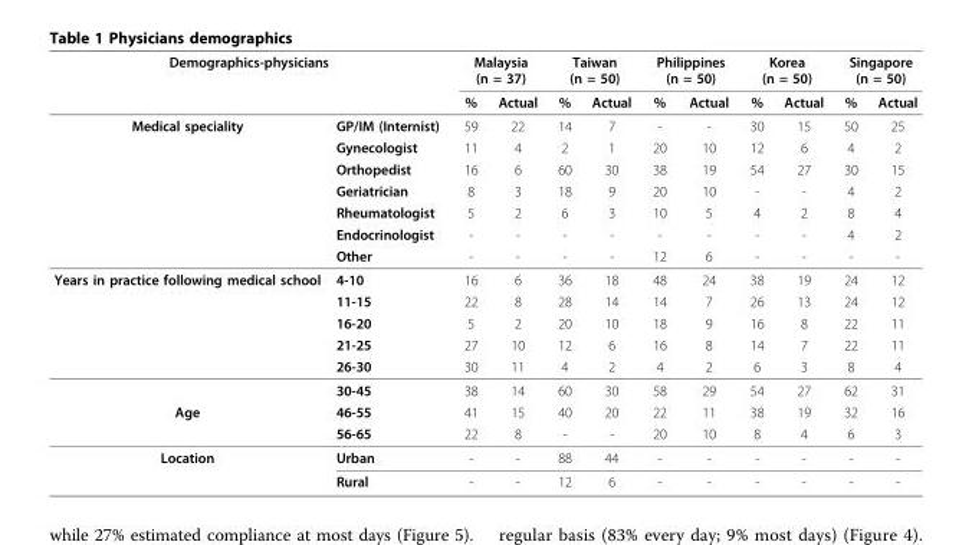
<table><thead><tr><td colspan="2">Demographics-physicians</td><td colspan="2">Malaysia (n = 37)</td><td colspan="2">Taiwan (n = 50)</td><td colspan="2">Philippines (n = 50)</td><td colspan="2">Korea (n = 50)</td><td colspan="2">Singapore (n = 50)</td></tr><tr><td></td><td></td><td>%</td><td>Actual</td><td>%</td><td>Actual</td><td>%</td><td>Actual</td><td>%</td><td>Actual</td><td>%</td><td>Actual</td></tr></thead><tbody><tr><td rowspan="7">Medical speciality</td><td>GP/IM (Internist)</td><td>59</td><td>22</td><td>14</td><td>7</td><td>-</td><td>-</td><td>30</td><td>15</td><td>50</td><td>25</td></tr><tr><td>Gynecologist</td><td>11</td><td>4</td><td>2</td><td>1</td><td>20</td><td>10</td><td>12</td><td>6</td><td>4</td><td>2</td></tr><tr><td>Orthopedist</td><td>16</td><td>6</td><td>60</td><td>30</td><td>38</td><td>19</td><td>54</td><td>27</td><td>30</td><td>15</td></tr><tr><td>Geriatrician</td><td>8</td><td>3</td><td>18</td><td>9</td><td>20</td><td>10</td><td>-</td><td>-</td><td>4</td><td>2</td></tr><tr><td>Rheumatologist</td><td>5</td><td>2</td><td>6</td><td>3</td><td>10</td><td>5</td><td>4</td><td>2</td><td>8</td><td>4</td></tr><tr><td>Endocrinologist</td><td>-</td><td>-</td><td>-</td><td>-</td><td>-</td><td>-</td><td>-</td><td>-</td><td>4</td><td>2</td></tr><tr><td>Other</td><td>-</td><td>-</td><td>-</td><td>-</td><td>12</td><td>6</td><td>-</td><td>-</td><td>-</td><td>-</td></tr><tr><td rowspan="6">Years in practice following medical school</td><td>4-10</td><td>16</td><td>6</td><td>36</td><td>18</td><td>48</td><td>24</td><td>38</td><td>19</td><td>24</td><td>12</td></tr><tr><td>11-15</td><td>22</td><td>8</td><td>28</td><td>14</td><td>14</td><td>7</td><td>26</td><td>13</td><td>24</td><td>12</td></tr><tr><td>16-20</td><td>5</td><td>2</td><td>20</td><td>10</td><td>18</td><td>9</td><td>16</td><td>8</td><td>22</td><td>11</td></tr><tr><td>21-25</td><td>27</td><td>10</td><td>12</td><td>6</td><td>16</td><td>8</td><td>14</td><td>7</td><td>22</td><td>11</td></tr><tr><td>26-30</td><td>30</td><td>11</td><td>4</td><td>2</td><td>4</td><td>2</td><td>6</td><td>3</td><td>8</td><td>4</td></tr><tr><td>30-45</td><td>38</td><td>14</td><td>60</td><td>30</td><td>58</td><td>29</td><td>54</td><td>27</td><td>62</td><td>31</td></tr><tr><td rowspan="2">Age</td><td>46-55</td><td>41</td><td>15</td><td>40</td><td>20</td><td>22</td><td>11</td><td>38</td><td>19</td><td>32</td><td>16</td></tr><tr><td>56-65</td><td>22</td><td>8</td><td>-</td><td>-</td><td>20</td><td>10</td><td>8</td><td>4</td><td>6</td><td>3</td></tr><tr><td rowspan="2">Location</td><td>Urban</td><td>-</td><td>-</td><td>88</td><td>44</td><td>-</td><td>-</td><td>-</td><td>-</td><td>-</td><td>-</td></tr><tr><td>Rural</td><td>-</td><td>-</td><td>12</td><td>6</td><td>-</td><td>-</td><td>-</td><td>-</td><td>-</td><td>-</td></tr></tbody></table>